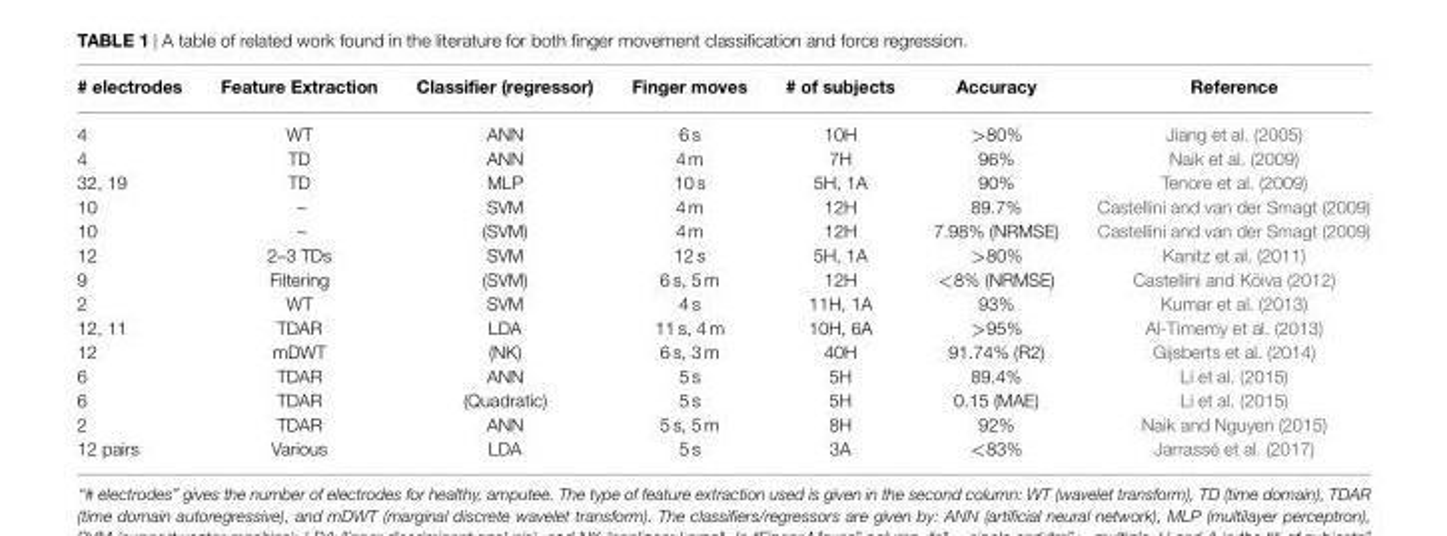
<table><thead><tr><td># electrodes</td><td>Feature Extraction</td><td>Classifier (regressor)</td><td>Finger moves</td><td># of subjects</td><td>Accuracy</td><td>Reference</td></tr></thead><tbody><tr><td>4</td><td>WT</td><td>ANN</td><td>6 s</td><td>10H</td><td>&gt;80%</td><td>Jiang et al. (2005)</td></tr><tr><td>4</td><td>TD</td><td>ANN</td><td>4 m</td><td>7H</td><td>96%</td><td>Naik et al. (2009)</td></tr><tr><td>32, 19</td><td>TD</td><td>MLP</td><td>10 s</td><td>5H, 1A</td><td>90%</td><td>Tenore et al. (2009)</td></tr><tr><td>10</td><td>–</td><td>SVM</td><td>4 m</td><td>12H</td><td>89.7%</td><td>Castellini and van der Smagt (2009)</td></tr><tr><td>10</td><td>–</td><td>(SVM)</td><td>4 m</td><td>12H</td><td>7.98% (NRMSE)</td><td>Castellini and van der Smagt (2009)</td></tr><tr><td>12</td><td>2–3 TDs</td><td>SVM</td><td>12 s</td><td>5H, 1A</td><td>&gt;80%</td><td>Kanitz et al. (2011)</td></tr><tr><td>9</td><td>Filtering</td><td>(SVM)</td><td>6 s, 5 m</td><td>12H</td><td>&lt;8% (NRMSE)</td><td>Castellini and Kõiva (2012)</td></tr><tr><td>2</td><td>WT</td><td>SVM</td><td>4 s</td><td>11H, 1A</td><td>93%</td><td>Kumar et al. (2013)</td></tr><tr><td>12, 11</td><td>TDAR</td><td>LDA</td><td>11 s, 4 m</td><td>10H, 6A</td><td>&gt;95%</td><td>Al-Timemy et al. (2013)</td></tr><tr><td>12</td><td>mDWT</td><td>(NK)</td><td>6 s, 3 m</td><td>40H</td><td>91.74% (R2)</td><td>Gijsberts et al. (2014)</td></tr><tr><td>6</td><td>TDAR</td><td>ANN</td><td>5 s</td><td>5H</td><td>89.4%</td><td>Li et al. (2015)</td></tr><tr><td>6</td><td>TDAR</td><td>(Quadratic)</td><td>5 s</td><td>5H</td><td>0.15 (MAE)</td><td>Li et al. (2015)</td></tr><tr><td>2</td><td>TDAR</td><td>ANN</td><td>5 s, 5 m</td><td>8H</td><td>92%</td><td>Naik and Nguyen (2015)</td></tr><tr><td>12 pairs</td><td>Various</td><td>LDA</td><td>5 s</td><td>3A</td><td>&lt;83%</td><td>Jarrassé et al. (2017)</td></tr></tbody></table>